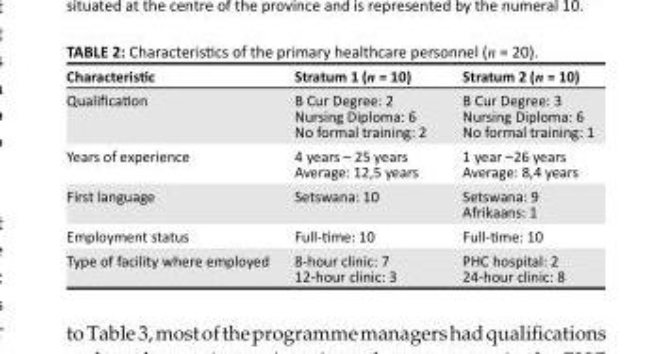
<table><thead><tr><td>Characteristic</td><td>Stratum 1 (n = 10)</td><td>Stratum 2 (n = 10)</td></tr></thead><tbody><tr><td>Qualification</td><td>B Cur Degree: 2 Nursing Diploma: 6 No formal training: 2</td><td>B Cur Degree: 3 Nursing Diploma: 6 No formal training: 1</td></tr><tr><td>Years of experience</td><td>4 years – 25 years Average: 12,5 years</td><td>1 year –26 years Average: 8,4 years</td></tr><tr><td>First language</td><td>Setswana: 10</td><td>Setswana: 9 Afrikaans: 1</td></tr><tr><td>Employment status</td><td>Full-time: 10</td><td>Full-time: 10</td></tr><tr><td>Type of facility where employed</td><td>8-hour clinic: 7 12-hour clinic: 3</td><td>PHC hospital: 2 24-hour clinic: 8</td></tr></tbody></table>